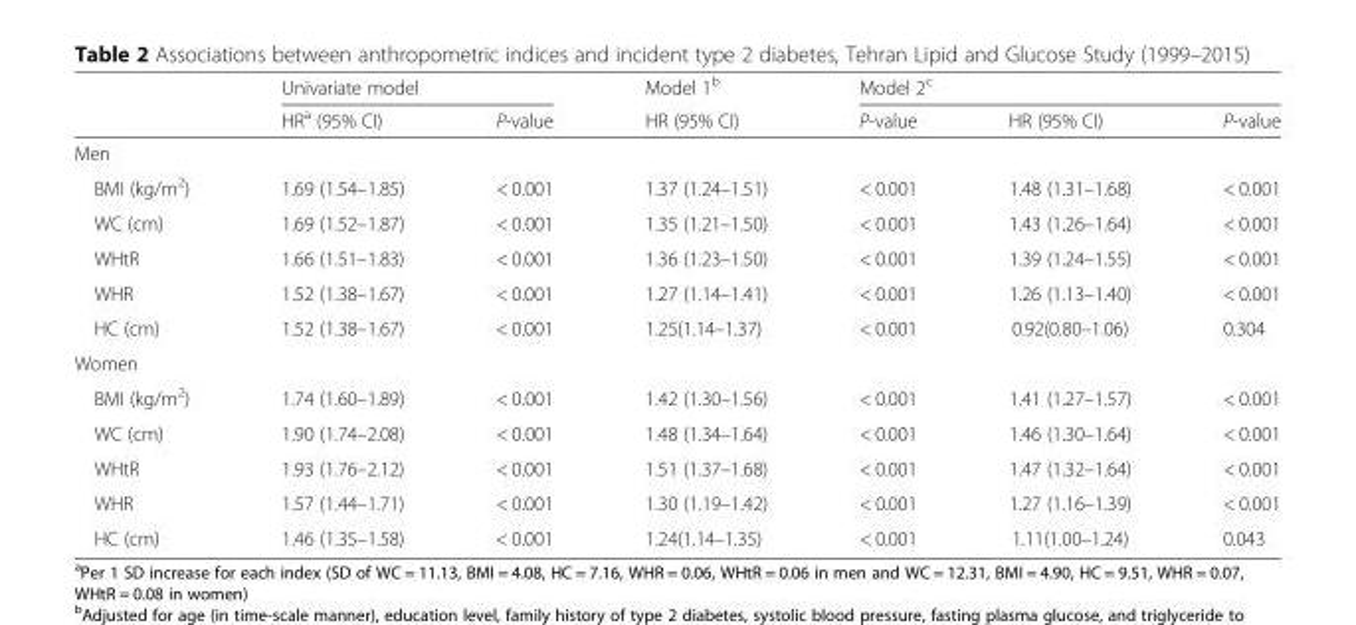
<table><thead><tr><td rowspan="2"></td><td colspan="2">Univariate model</td><td rowspan="2">Model 1<sup>b</sup> HR (95% CI)</td><td colspan="3">Model 2<sup>c</sup></td></tr><tr><td>HR<sup>a</sup> (95% CI)</td><td>P-value</td><td>P-value</td><td>HR (95% CI)</td><td>P-value</td></tr></thead><tbody><tr><td colspan="7">Men</td></tr><tr><td>BMI (kg/m<sup>2</sup>)</td><td>1.69 (1.54–1.85)</td><td>&lt; 0.001</td><td>1.37 (1.24–1.51)</td><td>&lt; 0.001</td><td>1.48 (1.31–1.68)</td><td>&lt; 0.001</td></tr><tr><td>WC (cm)</td><td>1.69 (1.52–1.87)</td><td>&lt; 0.001</td><td>1.35 (1.21–1.50)</td><td>&lt; 0.001</td><td>1.43 (1.26–1.64)</td><td>&lt; 0.001</td></tr><tr><td>WHtR</td><td>1.66 (1.51–1.83)</td><td>&lt; 0.001</td><td>1.36 (1.23–1.50)</td><td>&lt; 0.001</td><td>1.39 (1.24–1.55)</td><td>&lt; 0.001</td></tr><tr><td>WHR</td><td>1.52 (1.38–1.67)</td><td>&lt; 0.001</td><td>1.27 (1.14–1.41)</td><td>&lt; 0.001</td><td>1.26 (1.13–1.40)</td><td>&lt; 0.001</td></tr><tr><td>HC (cm)</td><td>1.52 (1.38–1.67)</td><td>&lt; 0.001</td><td>1.25(1.14–1.37)</td><td>&lt; 0.001</td><td>0.92(0.80–1.06)</td><td>0.304</td></tr><tr><td colspan="7">Women</td></tr><tr><td>BMI (kg/m<sup>2</sup>)</td><td>1.74 (1.60–1.89)</td><td>&lt; 0.001</td><td>1.42 (1.30–1.56)</td><td>&lt; 0.001</td><td>1.41 (1.27–1.57)</td><td>&lt; 0.001</td></tr><tr><td>WC (cm)</td><td>1.90 (1.74–2.08)</td><td>&lt; 0.001</td><td>1.48 (1.34–1.64)</td><td>&lt; 0.001</td><td>1.46 (1.30–1.64)</td><td>&lt; 0.001</td></tr><tr><td>WHtR</td><td>1.93 (1.76–2.12)</td><td>&lt; 0.001</td><td>1.51 (1.37–1.68)</td><td>&lt; 0.001</td><td>1.47 (1.32–1.64)</td><td>&lt; 0.001</td></tr><tr><td>WHR</td><td>1.57 (1.44–1.71)</td><td>&lt; 0.001</td><td>1.30 (1.19–1.42)</td><td>&lt; 0.001</td><td>1.27 (1.16–1.39)</td><td>&lt; 0.001</td></tr><tr><td>HC (cm)</td><td>1.46 (1.35–1.58)</td><td>&lt; 0.001</td><td>1.24(1.14–1.35)</td><td>&lt; 0.001</td><td>1.11(1.00–1.24)</td><td>0.043</td></tr></tbody></table>